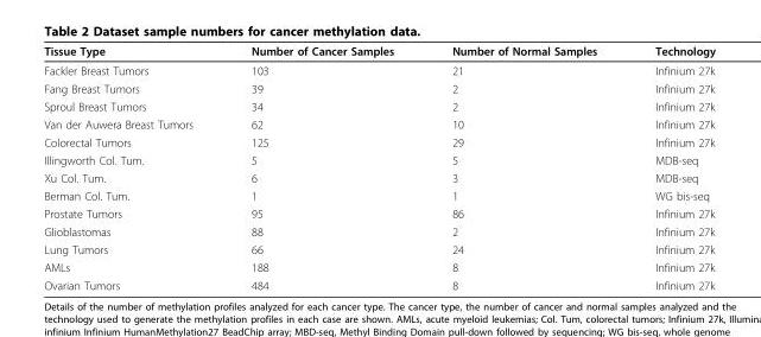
<table><thead><tr><td>Tissue Type</td><td>Number of Cancer Samples</td><td>Number of Normal Samples</td><td>Technology</td></tr></thead><tbody><tr><td>Fackler Breast Tumors</td><td>103</td><td>21</td><td>Infinium 27k</td></tr><tr><td>Fang Breast Tumors</td><td>39</td><td>2</td><td>Infinium 27k</td></tr><tr><td>Sproul Breast Tumors</td><td>34</td><td>2</td><td>Infinium 27k</td></tr><tr><td>Van der Auwera Breast Tumors</td><td>62</td><td>10</td><td>Infinium 27k</td></tr><tr><td>Colorectal Tumors</td><td>125</td><td>29</td><td>Infinium 27k</td></tr><tr><td>Illingworth Col. Tum.</td><td>5</td><td>5</td><td>MDB-seq</td></tr><tr><td>Xu Col. Tum.</td><td>6</td><td>3</td><td>MDB-seq</td></tr><tr><td>Berman Col. Tum.</td><td>1</td><td>1</td><td>WG bis-seq</td></tr><tr><td>Prostate Tumors</td><td>95</td><td>86</td><td>Infinium 27k</td></tr><tr><td>Glioblastomas</td><td>88</td><td>2</td><td>Infinium 27k</td></tr><tr><td>Lung Tumors</td><td>66</td><td>24</td><td>Infinium 27k</td></tr><tr><td>AMLs</td><td>188</td><td>8</td><td>Infinium 27k</td></tr><tr><td>Ovarian Tumors</td><td>484</td><td>8</td><td>Infinium 27k</td></tr></tbody></table>